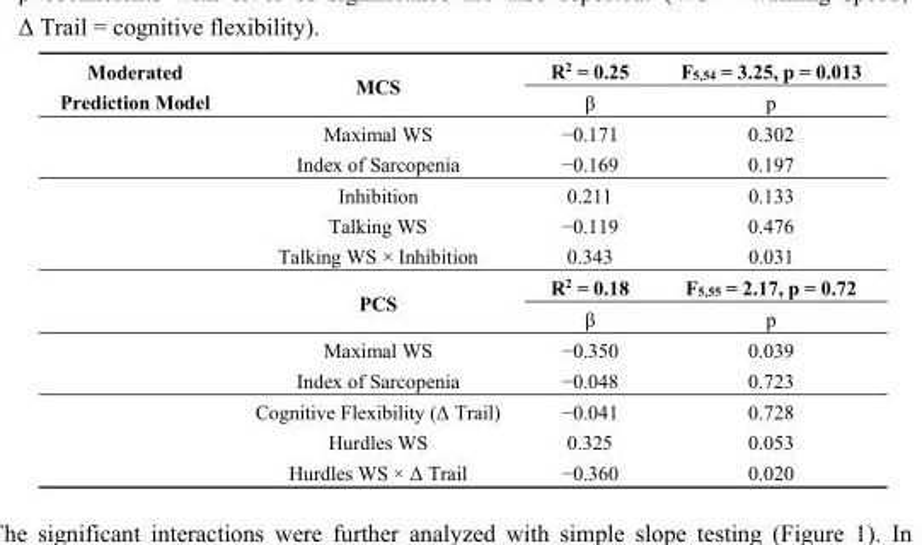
<table><tbody><tr><td rowspan="14">Moderated Prediction Model</td><td rowspan="2">MCS</td><td>R<sup>2</sup> = 0.25</td><td>F<sub>5,54</sub> = 3.25, p = 0.013</td></tr><tr><td>β</td><td>p</td></tr><tr><td>Maximal WS</td><td>−0.171</td><td>0.302</td></tr><tr><td>Index of Sarcopenia</td><td>−0.169</td><td>0.197</td></tr><tr><td>Inhibition</td><td>0.211</td><td>0.133</td></tr><tr><td>Talking WS</td><td>−0.119</td><td>0.476</td></tr><tr><td>Talking WS × Inhibition</td><td>0.343</td><td>0.031</td></tr><tr><td rowspan="2">PCS</td><td>R<sup>2</sup> = 0.18</td><td>F<sub>5,55</sub> = 2.17, p = 0.72</td></tr><tr><td>β</td><td>p</td></tr><tr><td>Maximal WS</td><td>−0.350</td><td>0.039</td></tr><tr><td>Index of Sarcopenia</td><td>−0.048</td><td>0.723</td></tr><tr><td>Cognitive Flexibility (Δ Trail)</td><td>−0.041</td><td>0.728</td></tr><tr><td>Hurdles WS</td><td>0.325</td><td>0.053</td></tr><tr><td>Hurdles WS × Δ Trail</td><td>−0.360</td><td>0.020</td></tr></tbody></table>